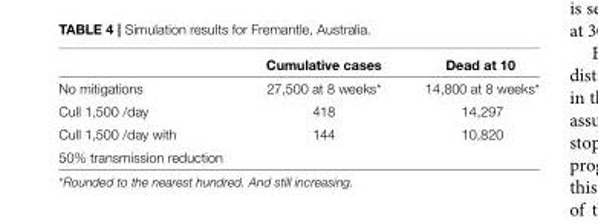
<table><thead><tr><td></td><td>Cumulative cases</td><td>Dead at 10</td></tr></thead><tbody><tr><td>No mitigations</td><td>27,500 at 8 weeks*</td><td>14,800 at 8 weeks*</td></tr><tr><td>Cull 1,500 /day</td><td>418</td><td>14,297</td></tr><tr><td>Cull 1,500 /day with</td><td>144</td><td>10,820</td></tr><tr><td>50% transmission reduction</td><td></td><td></td></tr></tbody></table>